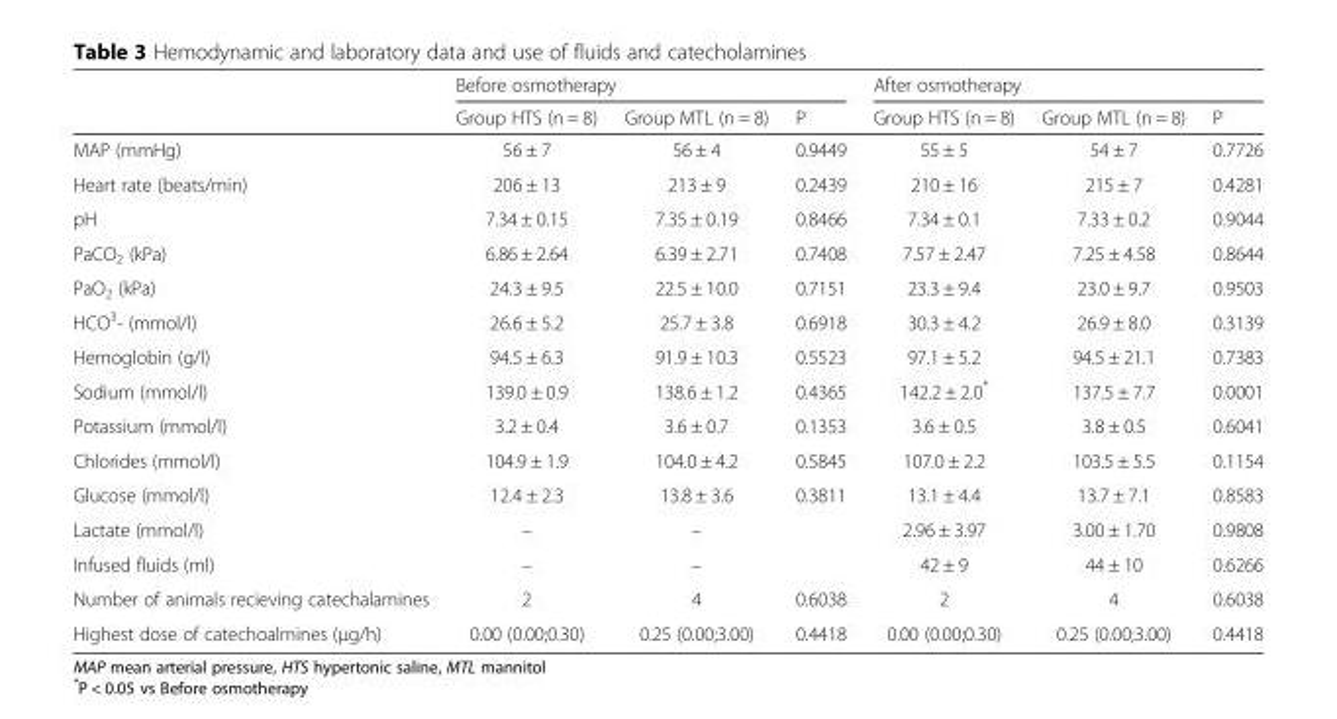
<table><thead><tr><td rowspan="2"></td><td colspan="3">Before osmotherapy</td><td colspan="3">After osmotherapy</td></tr><tr><td>Group HTS (n = 8)</td><td>Group MTL (n = 8)</td><td>P</td><td>Group HTS (n = 8)</td><td>Group MTL (n = 8)</td><td>P</td></tr></thead><tbody><tr><td>MAP (mmHg)</td><td>56 ± 7</td><td>56 ± 4</td><td>0.9449</td><td>55 ± 5</td><td>54 ± 7</td><td>0.7726</td></tr><tr><td>Heart rate (beats/min)</td><td>206 ± 13</td><td>213 ± 9</td><td>0.2439</td><td>210 ± 16</td><td>215 ± 7</td><td>0.4281</td></tr><tr><td>pH</td><td>7.34 ± 0.15</td><td>7.35 ± 0.19</td><td>0.8466</td><td>7.34 ± 0.1</td><td>7.33 ± 0.2</td><td>0.9044</td></tr><tr><td>PaCO<sub>2</sub> (kPa)</td><td>6.86 ± 2.64</td><td>6.39 ± 2.71</td><td>0.7408</td><td>7.57 ± 2.47</td><td>7.25 ± 4.58</td><td>0.8644</td></tr><tr><td>PaO<sub>2</sub> (kPa)</td><td>24.3 ± 9.5</td><td>22.5 ± 10.0</td><td>0.7151</td><td>23.3 ± 9.4</td><td>23.0 ± 9.7</td><td>0.9503</td></tr><tr><td>HCO<sup>3</sup>- (mmol/l)</td><td>26.6 ± 5.2</td><td>25.7 ± 3.8</td><td>0.6918</td><td>30.3 ± 4.2</td><td>26.9 ± 8.0</td><td>0.3139</td></tr><tr><td>Hemoglobin (g/l)</td><td>94.5 ± 6.3</td><td>91.9 ± 10.3</td><td>0.5523</td><td>97.1 ± 5.2</td><td>94.5 ± 21.1</td><td>0.7383</td></tr><tr><td>Sodium (mmol/l)</td><td>139.0 ± 0.9</td><td>138.6 ± 1.2</td><td>0.4365</td><td>142.2 ± 2.0*</td><td>137.5 ± 7.7</td><td>0.0001</td></tr><tr><td>Potassium (mmol/l)</td><td>3.2 ± 0.4</td><td>3.6 ± 0.7</td><td>0.1353</td><td>3.6 ± 0.5</td><td>3.8 ± 0.5</td><td>0.6041</td></tr><tr><td>Chlorides (mmol/l)</td><td>104.9 ± 1.9</td><td>104.0 ± 4.2</td><td>0.5845</td><td>107.0 ± 2.2</td><td>103.5 ± 5.5</td><td>0.1154</td></tr><tr><td>Glucose (mmol/l)</td><td>12.4 ± 2.3</td><td>13.8 ± 3.6</td><td>0.3811</td><td>13.1 ± 4.4</td><td>13.7 ± 7.1</td><td>0.8583</td></tr><tr><td>Lactate (mmol/l)</td><td>–</td><td>–</td><td></td><td>2.96 ± 3.97</td><td>3.00 ± 1.70</td><td>0.9808</td></tr><tr><td>Infused fluids (ml)</td><td>–</td><td>–</td><td></td><td>42 ± 9</td><td>44 ± 10</td><td>0.6266</td></tr><tr><td>Number of animals recieving catechalamines</td><td>2</td><td>4</td><td>0.6038</td><td>2</td><td>4</td><td>0.6038</td></tr><tr><td>Highest dose of catechoalmines (μg/h)</td><td>0.00 (0.00;0.30)</td><td>0.25 (0.00;3.00)</td><td>0.4418</td><td>0.00 (0.00;0.30)</td><td>0.25 (0.00;3.00)</td><td>0.4418</td></tr></tbody></table>